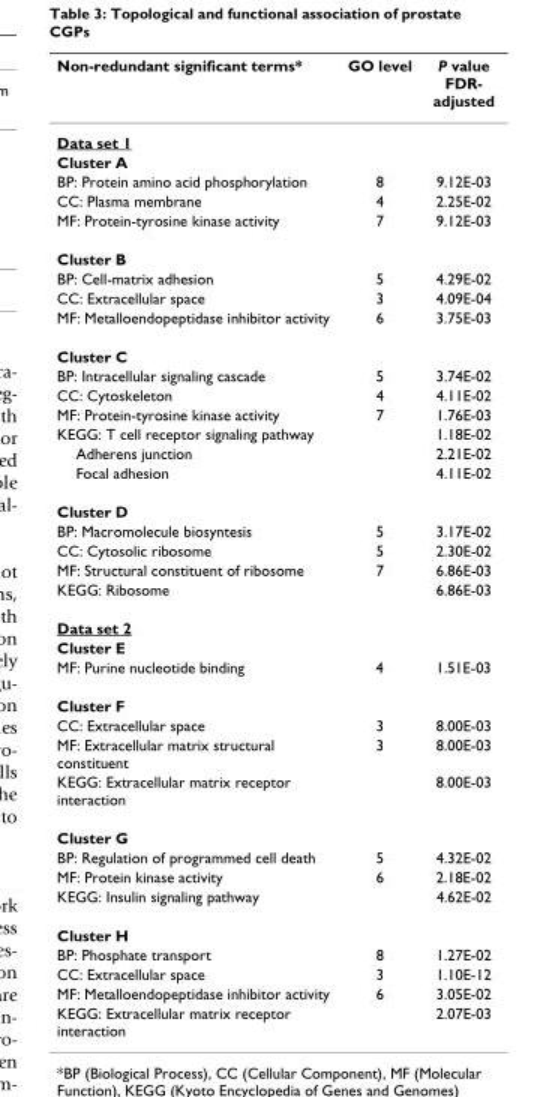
<table><thead><tr><td>Non-redundant significant terms*</td><td>GO level</td><td>P value FDR- adjusted</td></tr></thead><tbody><tr><td colspan="3">Data set 1</td></tr><tr><td colspan="3">Cluster A</td></tr><tr><td>BP: Protein amino acid phosphorylation</td><td>8</td><td>9.12E-03</td></tr><tr><td>CC: Plasma membrane</td><td>4</td><td>2.25E-02</td></tr><tr><td>MF: Protein-tyrosine kinase activity</td><td>7</td><td>9.12E-03</td></tr><tr><td colspan="3">Cluster B</td></tr><tr><td>BP: Cell-matrix adhesion</td><td>5</td><td>4.29E-02</td></tr><tr><td>CC: Extracellular space</td><td>3</td><td>4.09E-04</td></tr><tr><td>MF: Metalloendopeptidase inhibitor activity</td><td>6</td><td>3.75E-03</td></tr><tr><td colspan="3">Cluster C</td></tr><tr><td>BP: Intracellular signaling cascade</td><td>5</td><td>3.74E-02</td></tr><tr><td>CC: Cytoskeleton</td><td>4</td><td>4.11E-02</td></tr><tr><td>MF: Protein-tyrosine kinase activity</td><td>7</td><td>1.76E-03</td></tr><tr><td>KEGG: T cell receptor signaling pathway</td><td></td><td>1.18E-02</td></tr><tr><td>Adherens junction</td><td></td><td>2.21E-02</td></tr><tr><td>Focal adhesion</td><td></td><td>4.11E-02</td></tr><tr><td colspan="3">Cluster D</td></tr><tr><td>BP: Macromolecule biosyntesis</td><td>5</td><td>3.17E-02</td></tr><tr><td>CC: Cytosolic ribosome</td><td>5</td><td>2.30E-02</td></tr><tr><td>MF: Structural constituent of ribosome</td><td>7</td><td>6.86E-03</td></tr><tr><td>KEGG: Ribosome</td><td></td><td>6.86E-03</td></tr><tr><td colspan="3">Data set 2</td></tr><tr><td colspan="3">Cluster E</td></tr><tr><td>MF: Purine nucleotide binding</td><td>4</td><td>1.51E-03</td></tr><tr><td colspan="3">Cluster F</td></tr><tr><td>CC: Extracellular space</td><td>3</td><td>8.00E-03</td></tr><tr><td>MF: Extracellular matrix structural constituent</td><td>3</td><td>8.00E-03</td></tr><tr><td>KEGG: Extracellular matrix receptor interaction</td><td></td><td>8.00E-03</td></tr><tr><td colspan="3">Cluster G</td></tr><tr><td>BP: Regulation of programmed cell death</td><td>5</td><td>4.32E-02</td></tr><tr><td>MF: Protein kinase activity</td><td>6</td><td>2.18E-02</td></tr><tr><td>KEGG: Insulin signaling pathway</td><td></td><td>4.62E-02</td></tr><tr><td colspan="3">Cluster H</td></tr><tr><td>BP: Phosphate transport</td><td>8</td><td>1.27E-02</td></tr><tr><td>CC: Extracellular space</td><td>3</td><td>1.10E-12</td></tr><tr><td>MF: Metalloendopeptidase inhibitor activity</td><td>6</td><td>3.05E-02</td></tr><tr><td>KEGG: Extracellular matrix receptor interaction</td><td></td><td>2.07E-03</td></tr></tbody></table>